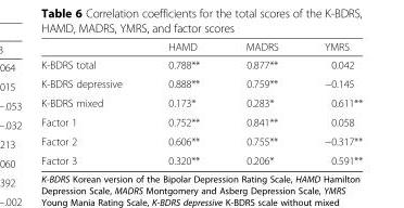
<table><thead><tr><td></td><td>HAMD</td><td>MADRS</td><td>YMRS</td></tr></thead><tbody><tr><td>K-BDRS total</td><td>0.788**</td><td>0.877**</td><td>0.042</td></tr><tr><td>K-BDRS depressive</td><td>0.888**</td><td>0.759**</td><td>−0.145</td></tr><tr><td>K-BDRS mixed</td><td>0.173*</td><td>0.283*</td><td>0.611**</td></tr><tr><td>Factor 1</td><td>0.752**</td><td>0.841**</td><td>0.058</td></tr><tr><td>Factor 2</td><td>0.606**</td><td>0.755**</td><td>−0.317**</td></tr><tr><td>Factor 3</td><td>0.320**</td><td>0.206*</td><td>0.591**</td></tr></tbody></table>